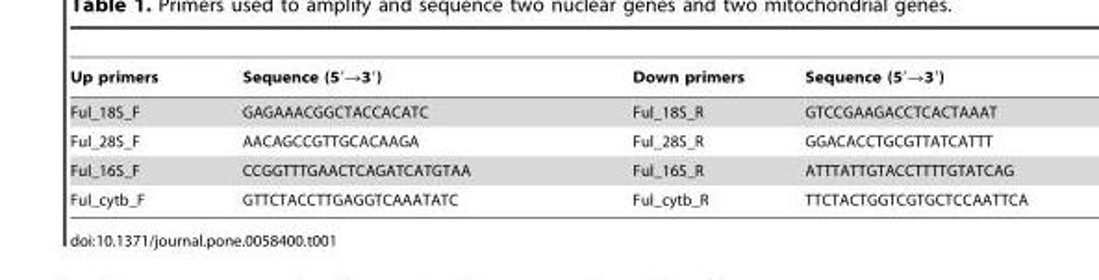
<table><thead><tr><td>Up primers</td><td>Sequence (5′→3′)</td><td>Down primers</td><td>Sequence (5′→3′)</td></tr></thead><tbody><tr><td>Ful_18S_F</td><td>GAGAAACGGCTACCACATC</td><td>Ful_18S_R</td><td>GTCCGAAGACCTCACTAAAT</td></tr><tr><td>Ful_28S_F</td><td>AACAGCCGTTGCACAAGA</td><td>Ful_28S_R</td><td>GGACACCTGCGTTATCATTT</td></tr><tr><td>Ful_16S_F</td><td>CCGGTTTGAACTCAGATCATGTAA</td><td>Ful_16S_R</td><td>ATTTATTGTACCTTTTGTATCAG</td></tr><tr><td>Ful_cytb_F</td><td>GTTCTACCTTGAGGTCAAATATC</td><td>Ful_cytb_R</td><td>TTCTACTGGTCGTGCTCCAATTCA</td></tr></tbody></table>